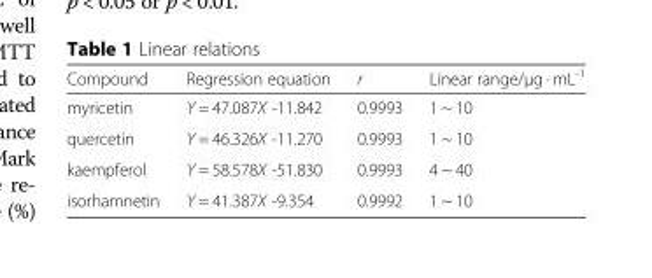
<table><thead><tr><td>Compound</td><td>Regression equation</td><td>r</td><td>Linear range/μg · mL<sup>-1</sup></td></tr></thead><tbody><tr><td>myricetin</td><td>Y = 47.087X -11.842</td><td>0.9993</td><td>1 ~ 10</td></tr><tr><td>quercetin</td><td>Y = 46.326X -11.270</td><td>0.9993</td><td>1 ~ 10</td></tr><tr><td>kaempferol</td><td>Y = 58.578X -51.830</td><td>0.9993</td><td>4 ~ 40</td></tr><tr><td>isorhamnetin</td><td>Y = 41.387X -9.354</td><td>0.9992</td><td>1 ~ 10</td></tr></tbody></table>